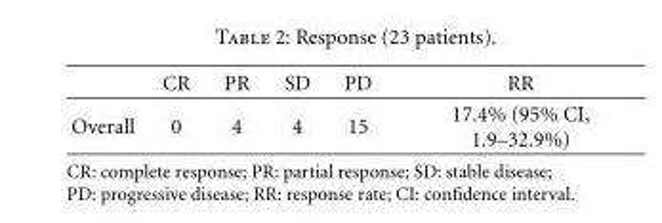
<table><thead><tr><td></td><td>CR</td><td>PR</td><td>SD</td><td>PD</td><td>RR</td></tr></thead><tbody><tr><td>Overall</td><td>0</td><td>4</td><td>4</td><td>15</td><td>17.4% (95% CI, 1.9–32.9%)</td></tr></tbody></table>